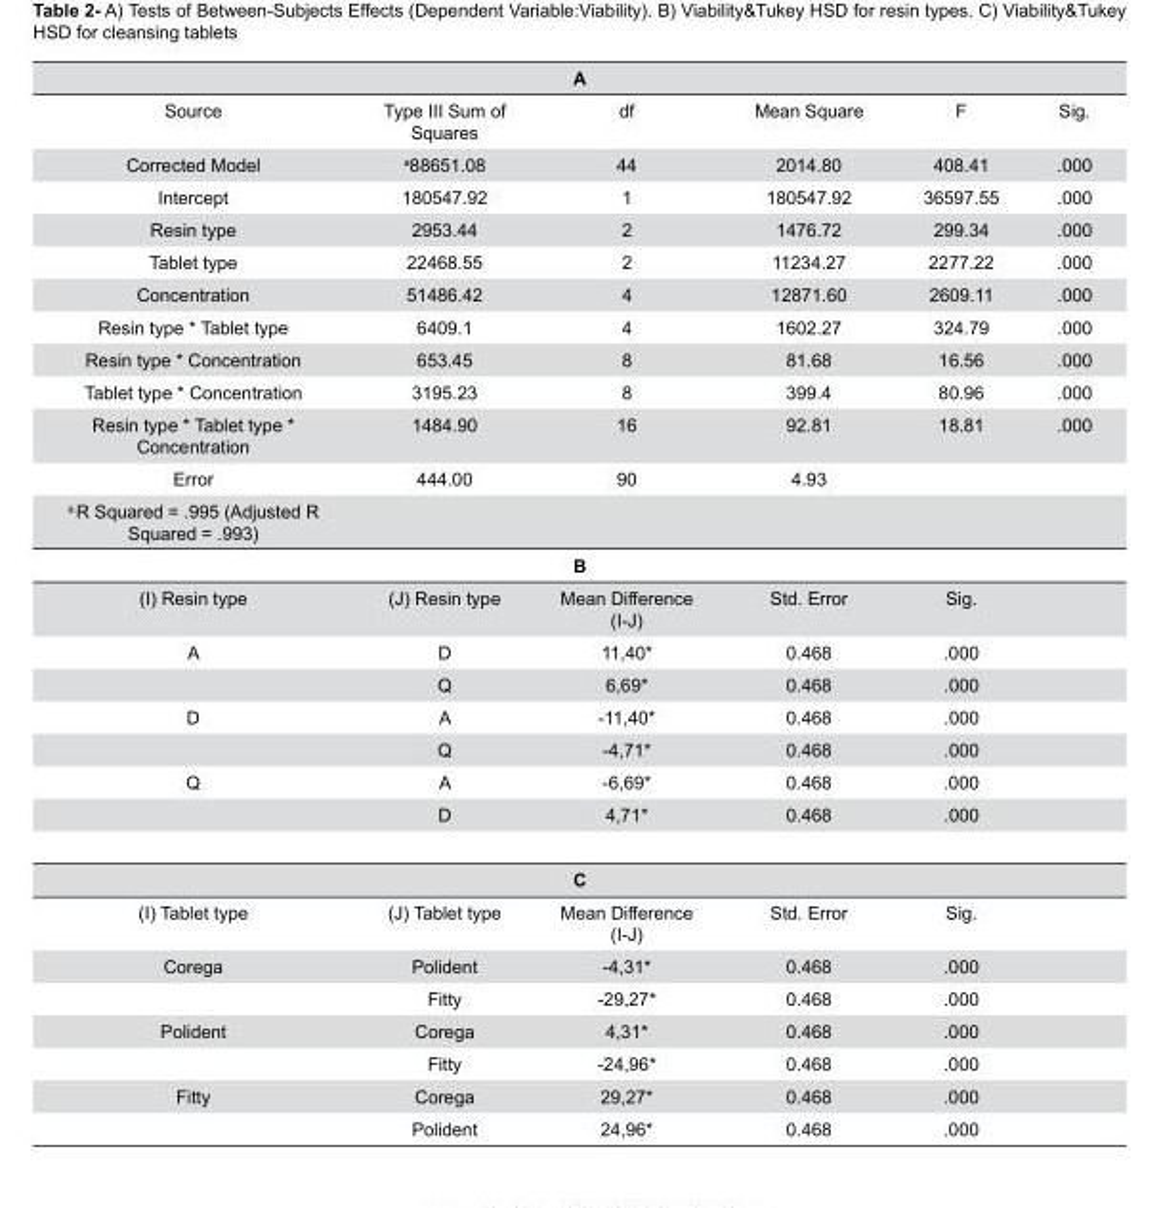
<table><thead><tr><td colspan="6">A</td></tr><tr><td>Source</td><td>Type III Sum of Squares</td><td>df</td><td>Mean Square</td><td>F</td><td>Sig.</td></tr></thead><tbody><tr><td>Corrected Model</td><td><sup>a</sup>88651.08</td><td>44</td><td>2014.80</td><td>408.41</td><td>.000</td></tr><tr><td>Intercept</td><td>180547.92</td><td>1</td><td>180547.92</td><td>36597.55</td><td>.000</td></tr><tr><td>Resin type</td><td>2953.44</td><td>2</td><td>1476.72</td><td>299.34</td><td>.000</td></tr><tr><td>Tablet type</td><td>22468.55</td><td>2</td><td>11234.27</td><td>2277.22</td><td>.000</td></tr><tr><td>Concentration</td><td>51486.42</td><td>4</td><td>12871.60</td><td>2609.11</td><td>.000</td></tr><tr><td>Resin type * Tablet type</td><td>6409.1</td><td>4</td><td>1602.27</td><td>324.79</td><td>.000</td></tr><tr><td>Resin type * Concentration</td><td>653.45</td><td>8</td><td>81.68</td><td>16.56</td><td>.000</td></tr><tr><td>Tablet type * Concentration</td><td>3195.23</td><td>8</td><td>399.4</td><td>80.96</td><td>.000</td></tr><tr><td>Resin type * Tablet type * Concentration</td><td>1484.90</td><td>16</td><td>92.81</td><td>18.81</td><td>.000</td></tr><tr><td>Error</td><td>444.00</td><td>90</td><td>4.93</td><td></td><td></td></tr><tr><td colspan="6">a.R Squared = .995 (Adjusted R Squared = .993)</td></tr><tr><td colspan="6">B</td></tr><tr><td>(I) Resin type</td><td>(J) Resin type</td><td>Mean Difference (I-J)</td><td>Std. Error</td><td>Sig.</td><td></td></tr><tr><td rowspan="2">A</td><td>D</td><td>11,40*</td><td>0.468</td><td>.000</td><td></td></tr><tr><td>Q</td><td>6,69*</td><td>0.468</td><td>.000</td><td></td></tr><tr><td rowspan="2">D</td><td>A</td><td>-11,40*</td><td>0.468</td><td>.000</td><td></td></tr><tr><td>Q</td><td>-4,71*</td><td>0.468</td><td>.000</td><td></td></tr><tr><td rowspan="2">Q</td><td>A</td><td>-6,69*</td><td>0.468</td><td>.000</td><td></td></tr><tr><td>D</td><td>4,71*</td><td>0.468</td><td>.000</td><td></td></tr><tr><td colspan="6">C</td></tr><tr><td>(I) Tablet type</td><td>(J) Tablet type</td><td>Mean Difference (I-J)</td><td>Std. Error</td><td>Sig.</td><td></td></tr><tr><td rowspan="2">Corega</td><td>Polident</td><td>-4,31*</td><td>0.468</td><td>.000</td><td></td></tr><tr><td>Fitty</td><td>-29,27*</td><td>0.468</td><td>.000</td><td></td></tr><tr><td rowspan="2">Polident</td><td>Corega</td><td>4,31*</td><td>0.468</td><td>.000</td><td></td></tr><tr><td>Fitty</td><td>-24,96*</td><td>0.468</td><td>.000</td><td></td></tr><tr><td rowspan="2">Fitty</td><td>Corega</td><td>29,27*</td><td>0.468</td><td>.000</td><td></td></tr><tr><td>Polident</td><td>24,96*</td><td>0.468</td><td>.000</td><td></td></tr></tbody></table>